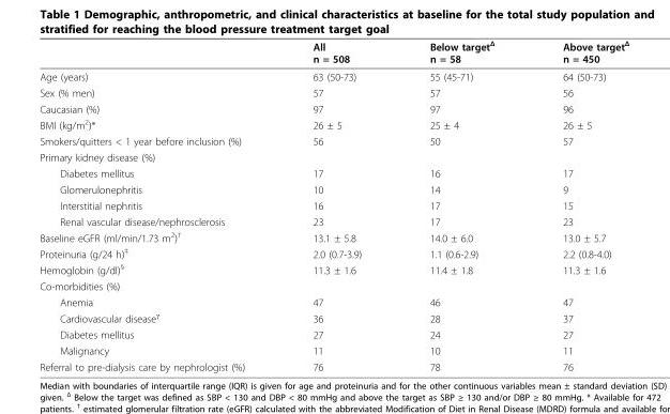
<table><thead><tr><td></td><td>All n = 508</td><td>Below target<sup>Δ</sup> n = 58</td><td>Above target<sup>Δ</sup> n = 450</td></tr></thead><tbody><tr><td>Age (years)</td><td>63 (50-73)</td><td>55 (45-71)</td><td>64 (50-73)</td></tr><tr><td>Sex (% men)</td><td>57</td><td>57</td><td>56</td></tr><tr><td>Caucasian (%)</td><td>97</td><td>97</td><td>96</td></tr><tr><td>BMI (kg/m<sup>2</sup>)*</td><td>26 ± 5</td><td>25 ± 4</td><td>26 ± 5</td></tr><tr><td>Smokers/quitters &lt; 1 year before inclusion (%)</td><td>56</td><td>50</td><td>57</td></tr><tr><td colspan="4">Primary kidney disease (%)</td></tr><tr><td>Diabetes mellitus</td><td>17</td><td>16</td><td>17</td></tr><tr><td>Glomerulonephritis</td><td>10</td><td>14</td><td>9</td></tr><tr><td>Interstitial nephritis</td><td>16</td><td>17</td><td>15</td></tr><tr><td>Renal vascular disease/nephrosclerosis</td><td>23</td><td>17</td><td>23</td></tr><tr><td>Baseline eGFR (ml/min/1.73 m<sup>2</sup>)<sup>†</sup></td><td>13.1 ± 5.8</td><td>14.0 ± 6.0</td><td>13.0 ± 5.7</td></tr><tr><td>Proteinuria (g/24 h)<sup>‡</sup></td><td>2.0 (0.7-3.9)</td><td>1.1 (0.6-2.9)</td><td>2.2 (0.8-4.0)</td></tr><tr><td>Hemoglobin (g/dl)<sup>§</sup></td><td>11.3 ± 1.6</td><td>11.4 ± 1.8</td><td>11.3 ± 1.6</td></tr><tr><td colspan="4">Co-morbidities (%)</td></tr><tr><td>Anemia<sup>·</sup></td><td>47</td><td>46</td><td>47</td></tr><tr><td>Cardiovascular disease<sup>γ</sup></td><td>36</td><td>28</td><td>37</td></tr><tr><td>Diabetes mellitus</td><td>27</td><td>24</td><td>27</td></tr><tr><td>Malignancy</td><td>11</td><td>10</td><td>11</td></tr><tr><td>Referral to pre-dialysis care by nephrologist (%)</td><td>76</td><td>78</td><td>76</td></tr></tbody></table>